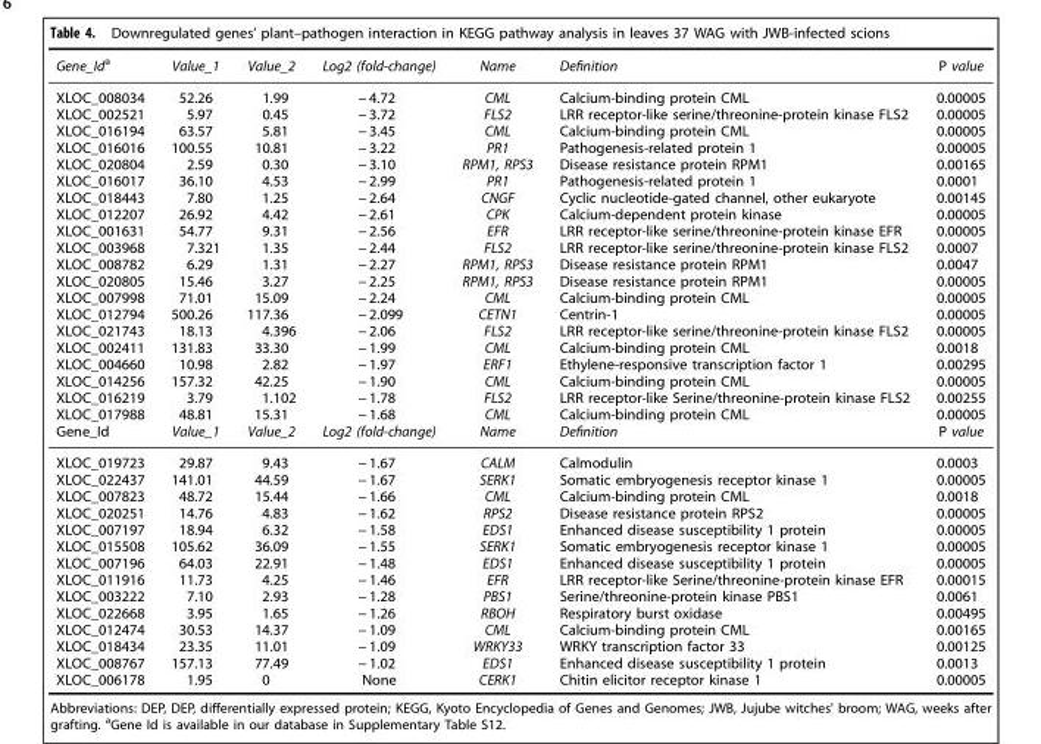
<table><thead><tr><td>Gene_Id<sup>a</sup></td><td>Value_1</td><td>Value_2</td><td>Log2 (fold-change)</td><td>Name</td><td>Definition</td><td>P value</td></tr></thead><tbody><tr><td>XLOC_008034</td><td>52.26</td><td>1.99</td><td>− 4.72</td><td>CML</td><td>Calcium-binding protein CML</td><td>0.00005</td></tr><tr><td>XLOC_002521</td><td>5.97</td><td>0.45</td><td>− 3.72</td><td>FLS2</td><td>LRR receptor-like serine/threonine-protein kinase FLS2</td><td>0.00005</td></tr><tr><td>XLOC_016194</td><td>63.57</td><td>5.81</td><td>− 3.45</td><td>CML</td><td>Calcium-binding protein CML</td><td>0.00005</td></tr><tr><td>XLOC_016016</td><td>100.55</td><td>10.81</td><td>− 3.22</td><td>PR1</td><td>Pathogenesis-related protein 1</td><td>0.00005</td></tr><tr><td>XLOC_020804</td><td>2.59</td><td>0.30</td><td>− 3.10</td><td>RPM1, RPS3</td><td>Disease resistance protein RPM1</td><td>0.00165</td></tr><tr><td>XLOC_016017</td><td>36.10</td><td>4.53</td><td>− 2.99</td><td>PR1</td><td>Pathogenesis-related protein 1</td><td>0.0001</td></tr><tr><td>XLOC_018443</td><td>7.80</td><td>1.25</td><td>− 2.64</td><td>CNGF</td><td>Cyclic nucleotide-gated channel, other eukaryote</td><td>0.00145</td></tr><tr><td>XLOC_012207</td><td>26.92</td><td>4.42</td><td>− 2.61</td><td>CPK</td><td>Calcium-dependent protein kinase</td><td>0.00005</td></tr><tr><td>XLOC_001631</td><td>54.77</td><td>9.31</td><td>− 2.56</td><td>EFR</td><td>LRR receptor-like serine/threonine-protein kinase EFR</td><td>0.00005</td></tr><tr><td>XLOC_003968</td><td>7.321</td><td>1.35</td><td>− 2.44</td><td>FLS2</td><td>LRR receptor-like serine/threonine-protein kinase FLS2</td><td>0.0007</td></tr><tr><td>XLOC_008782</td><td>6.29</td><td>1.31</td><td>− 2.27</td><td>RPM1, RPS3</td><td>Disease resistance protein RPM1</td><td>0.0047</td></tr><tr><td>XLOC_020805</td><td>15.46</td><td>3.27</td><td>− 2.25</td><td>RPM1, RPS3</td><td>Disease resistance protein RPM1</td><td>0.00005</td></tr><tr><td>XLOC_007998</td><td>71.01</td><td>15.09</td><td>− 2.24</td><td>CML</td><td>Calcium-binding protein CML</td><td>0.00005</td></tr><tr><td>XLOC_012794</td><td>500.26</td><td>117.36</td><td>− 2.099</td><td>CETN1</td><td>Centrin-1</td><td>0.00005</td></tr><tr><td>XLOC_021743</td><td>18.13</td><td>4.396</td><td>− 2.06</td><td>FLS2</td><td>LRR receptor-like serine/threonine-protein kinase FLS2</td><td>0.00005</td></tr><tr><td>XLOC_002411</td><td>131.83</td><td>33.30</td><td>− 1.99</td><td>CML</td><td>Calcium-binding protein CML</td><td>0.0018</td></tr><tr><td>XLOC_004660</td><td>10.98</td><td>2.82</td><td>− 1.97</td><td>ERF1</td><td>Ethylene-responsive transcription factor 1</td><td>0.00295</td></tr><tr><td>XLOC_014256</td><td>157.32</td><td>42.25</td><td>− 1.90</td><td>CML</td><td>Calcium-binding protein CML</td><td>0.00005</td></tr><tr><td>XLOC_016219</td><td>3.79</td><td>1.102</td><td>− 1.78</td><td>FLS2</td><td>LRR receptor-like Serine/threonine-protein kinase FLS2</td><td>0.00255</td></tr><tr><td>XLOC_017988</td><td>48.81</td><td>15.31</td><td>− 1.68</td><td>CML</td><td>Calcium-binding protein CML</td><td>0.00005</td></tr><tr><td>Gene_Id</td><td>Value_1</td><td>Value_2</td><td>Log2 (fold-change)</td><td>Name</td><td>Definition</td><td>P value</td></tr><tr><td>XLOC_019723</td><td>29.87</td><td>9.43</td><td>− 1.67</td><td>CALM</td><td>Calmodulin</td><td>0.0003</td></tr><tr><td>XLOC_022437</td><td>141.01</td><td>44.59</td><td>− 1.67</td><td>SERK1</td><td>Somatic embryogenesis receptor kinase 1</td><td>0.00005</td></tr><tr><td>XLOC_007823</td><td>48.72</td><td>15.44</td><td>− 1.66</td><td>CML</td><td>Calcium-binding protein CML</td><td>0.0018</td></tr><tr><td>XLOC_020251</td><td>14.76</td><td>4.83</td><td>− 1.62</td><td>RPS2</td><td>Disease resistance protein RPS2</td><td>0.00005</td></tr><tr><td>XLOC_007197</td><td>18.94</td><td>6.32</td><td>− 1.58</td><td>EDS1</td><td>Enhanced disease susceptibility 1 protein</td><td>0.00005</td></tr><tr><td>XLOC_015508</td><td>105.62</td><td>36.09</td><td>− 1.55</td><td>SERK1</td><td>Somatic embryogenesis receptor kinase 1</td><td>0.00005</td></tr><tr><td>XLOC_007196</td><td>64.03</td><td>22.91</td><td>− 1.48</td><td>EDS1</td><td>Enhanced disease susceptibility 1 protein</td><td>0.00005</td></tr><tr><td>XLOC_011916</td><td>11.73</td><td>4.25</td><td>− 1.46</td><td>EFR</td><td>LRR receptor-like Serine/threonine-protein kinase EFR</td><td>0.00015</td></tr><tr><td>XLOC_003222</td><td>7.10</td><td>2.93</td><td>− 1.28</td><td>PBS1</td><td>Serine/threonine-protein kinase PBS1</td><td>0.0061</td></tr><tr><td>XLOC_022668</td><td>3.95</td><td>1.65</td><td>− 1.26</td><td>RBOH</td><td>Respiratory burst oxidase</td><td>0.00495</td></tr><tr><td>XLOC_012474</td><td>30.53</td><td>14.37</td><td>− 1.09</td><td>CML</td><td>Calcium-binding protein CML</td><td>0.00165</td></tr><tr><td>XLOC_018434</td><td>23.35</td><td>11.01</td><td>− 1.09</td><td>WRKY33</td><td>WRKY transcription factor 33</td><td>0.00125</td></tr><tr><td>XLOC_008767</td><td>157.13</td><td>77.49</td><td>− 1.02</td><td>EDS1</td><td>Enhanced disease susceptibility 1 protein</td><td>0.0013</td></tr><tr><td>XLOC_006178</td><td>1.95</td><td>0</td><td>None</td><td>CERK1</td><td>Chitin elicitor receptor kinase 1</td><td>0.00005</td></tr></tbody></table>